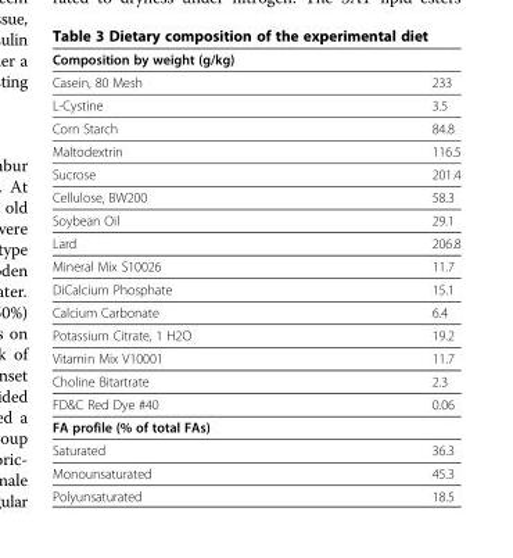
<table><thead><tr><td>Composition by weight (g/kg)</td><td></td></tr></thead><tbody><tr><td>Casein, 80 Mesh</td><td>233</td></tr><tr><td>L-Cystine</td><td>3.5</td></tr><tr><td>Corn Starch</td><td>84.8</td></tr><tr><td>Maltodextrin</td><td>116.5</td></tr><tr><td>Sucrose</td><td>201.4</td></tr><tr><td>Cellulose, BW200</td><td>58.3</td></tr><tr><td>Soybean Oil</td><td>29.1</td></tr><tr><td>Lard</td><td>206.8</td></tr><tr><td>Mineral Mix S10026</td><td>11.7</td></tr><tr><td>DiCalcium Phosphate</td><td>15.1</td></tr><tr><td>Calcium Carbonate</td><td>6.4</td></tr><tr><td>Potassium Citrate, 1 H2O</td><td>19.2</td></tr><tr><td>Vitamin Mix V10001</td><td>11.7</td></tr><tr><td>Choline Bitartrate</td><td>2.3</td></tr><tr><td>FD&amp;C Red Dye #40</td><td>0.06</td></tr><tr><td colspan="2">FA profile (% of total FAs)</td></tr><tr><td>Saturated</td><td>36.3</td></tr><tr><td>Monounsaturated</td><td>45.3</td></tr><tr><td>Polyunsaturated</td><td>18.5</td></tr></tbody></table>